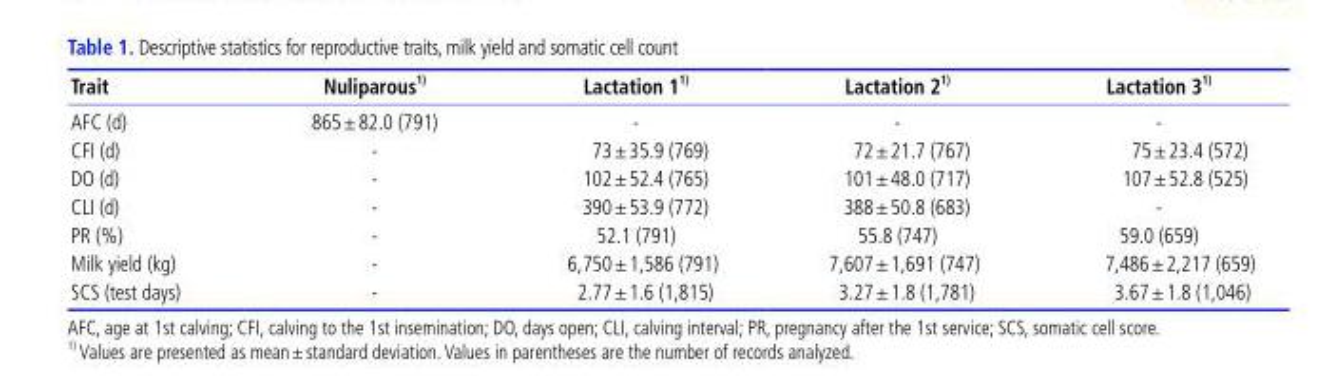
<table><thead><tr><td>Trait</td><td>Nuliparous 1)</td><td>Lactation 1 1)</td><td>Lactation 2 1)</td><td>Lactation 3 1)</td></tr></thead><tbody><tr><td>AFC (d)</td><td>865±82.0 (791)</td><td>-</td><td>-</td><td>-</td></tr><tr><td>CFI (d)</td><td>-</td><td>73±35.9 (769)</td><td>72±21.7 (767)</td><td>75±23.4 (572)</td></tr><tr><td>DO (d)</td><td>-</td><td>102±52.4 (765)</td><td>101±48.0 (717)</td><td>107±52.8 (525)</td></tr><tr><td>CLI (d)</td><td>-</td><td>390±53.9 (772)</td><td>388±50.8 (683)</td><td>-</td></tr><tr><td>PR (%)</td><td>-</td><td>52.1 (791)</td><td>55.8 (747)</td><td>59.0 (659)</td></tr><tr><td>Milk yield (kg)</td><td>-</td><td>6,750±1,586 (791)</td><td>7,607±1,691 (747)</td><td>7,486±2,217 (659)</td></tr><tr><td>SCS (test days)</td><td>-</td><td>2.77±1.6 (1,815)</td><td>3.27±1.8 (1,781)</td><td>3.67±1.8 (1,046)</td></tr></tbody></table>